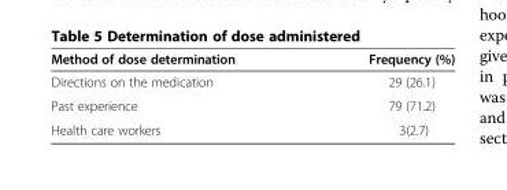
<table><thead><tr><td>Method of dose determination</td><td>Frequency (%)</td></tr></thead><tbody><tr><td>Directions on the medication</td><td>29 (26.1)</td></tr><tr><td>Past experience</td><td>79 (71.2)</td></tr><tr><td>Health care workers</td><td>3(2.7)</td></tr></tbody></table>